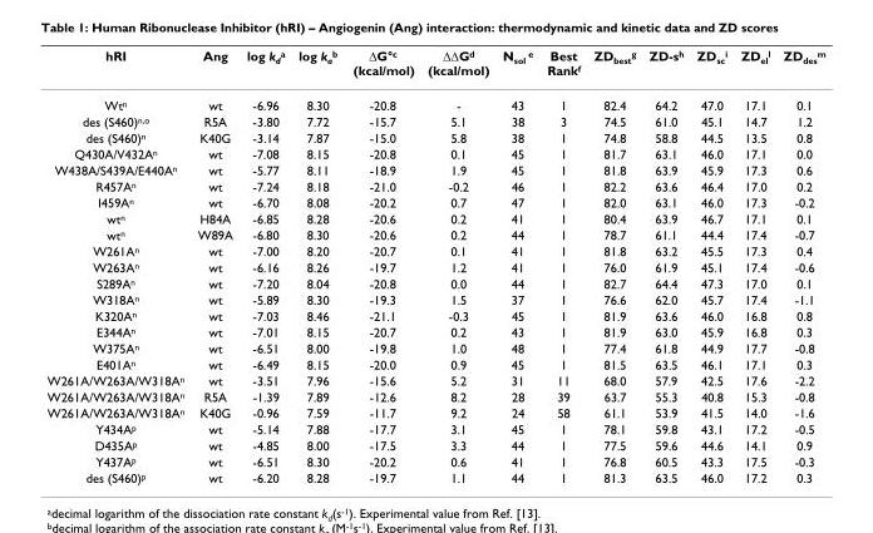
<table><thead><tr><td>hRI</td><td>Ang</td><td>log k<sub>d</sub><sup>a</sup></td><td>log k<sub>a</sub><sup>b</sup></td><td>∆G°c (kcal/mol)</td><td>∆∆Gd (kcal/mol)</td><td>N<sub>sol</sub> <sup>e</sup></td><td>Best Rank<sup>f</sup></td><td>ZD<sub>best</sub><sup>g</sup></td><td>ZD-s<sup>h</sup></td><td>ZD<sub>sc</sub><sup>i</sup></td><td>ZD<sub>el</sub><sup>l</sup></td><td>ZD<sub>des</sub><sup>m</sup></td></tr></thead><tbody><tr><td>Wt<sup>n</sup></td><td>wt</td><td>-6.96</td><td>8.30</td><td>-20.8</td><td>-</td><td>43</td><td>1</td><td>82.4</td><td>64.2</td><td>47.0</td><td>17.1</td><td>0.1</td></tr><tr><td>des (S460)<sup>n,o</sup></td><td>R5A</td><td>-3.80</td><td>7.72</td><td>-15.7</td><td>5.1</td><td>38</td><td>3</td><td>74.5</td><td>61.0</td><td>45.1</td><td>14.7</td><td>1.2</td></tr><tr><td>des (S460)<sup>n</sup></td><td>K40G</td><td>-3.14</td><td>7.87</td><td>-15.0</td><td>5.8</td><td>38</td><td>1</td><td>74.8</td><td>58.8</td><td>44.5</td><td>13.5</td><td>0.8</td></tr><tr><td>Q430A/V432A<sup>n</sup></td><td>wt</td><td>-7.08</td><td>8.15</td><td>-20.8</td><td>0.1</td><td>45</td><td>1</td><td>81.7</td><td>63.1</td><td>46.0</td><td>17.1</td><td>0.0</td></tr><tr><td>W438A/S439A/E440A<sup>n</sup></td><td>wt</td><td>-5.77</td><td>8.11</td><td>-18.9</td><td>1.9</td><td>45</td><td>1</td><td>81.8</td><td>63.9</td><td>45.9</td><td>17.3</td><td>0.6</td></tr><tr><td>R457A<sup>n</sup></td><td>wt</td><td>-7.24</td><td>8.18</td><td>-21.0</td><td>-0.2</td><td>46</td><td>1</td><td>82.2</td><td>63.6</td><td>46.4</td><td>17.0</td><td>0.2</td></tr><tr><td>I459A<sup>n</sup></td><td>wt</td><td>-6.70</td><td>8.08</td><td>-20.2</td><td>0.7</td><td>47</td><td>1</td><td>82.0</td><td>63.1</td><td>46.0</td><td>17.3</td><td>-0.2</td></tr><tr><td>wt<sup>n</sup></td><td>H84A</td><td>-6.85</td><td>8.28</td><td>-20.6</td><td>0.2</td><td>41</td><td>1</td><td>80.4</td><td>63.9</td><td>46.7</td><td>17.1</td><td>0.1</td></tr><tr><td>wt<sup>n</sup></td><td>W89A</td><td>-6.80</td><td>8.30</td><td>-20.6</td><td>0.2</td><td>44</td><td>1</td><td>78.7</td><td>61.1</td><td>44.4</td><td>17.4</td><td>-0.7</td></tr><tr><td>W261A<sup>n</sup></td><td>wt</td><td>-7.00</td><td>8.20</td><td>-20.7</td><td>0.1</td><td>41</td><td>1</td><td>81.8</td><td>63.2</td><td>45.5</td><td>17.3</td><td>0.4</td></tr><tr><td>W263A<sup>n</sup></td><td>wt</td><td>-6.16</td><td>8.26</td><td>-19.7</td><td>1.2</td><td>41</td><td>1</td><td>76.0</td><td>61.9</td><td>45.1</td><td>17.4</td><td>-0.6</td></tr><tr><td>S289A<sup>n</sup></td><td>wt</td><td>-7.20</td><td>8.04</td><td>-20.8</td><td>0.0</td><td>44</td><td>1</td><td>82.7</td><td>64.4</td><td>47.3</td><td>17.0</td><td>0.1</td></tr><tr><td>W318A<sup>n</sup></td><td>wt</td><td>-5.89</td><td>8.30</td><td>-19.3</td><td>1.5</td><td>37</td><td>1</td><td>76.6</td><td>62.0</td><td>45.7</td><td>17.4</td><td>-1.1</td></tr><tr><td>K320A<sup>n</sup></td><td>wt</td><td>-7.03</td><td>8.46</td><td>-21.1</td><td>-0.3</td><td>45</td><td>1</td><td>81.9</td><td>63.6</td><td>46.0</td><td>16.8</td><td>0.8</td></tr><tr><td>E344A<sup>n</sup></td><td>wt</td><td>-7.01</td><td>8.15</td><td>-20.7</td><td>0.2</td><td>43</td><td>1</td><td>81.9</td><td>63.0</td><td>45.9</td><td>16.8</td><td>0.3</td></tr><tr><td>W375A<sup>n</sup></td><td>wt</td><td>-6.51</td><td>8.00</td><td>-19.8</td><td>1.0</td><td>48</td><td>1</td><td>77.4</td><td>61.8</td><td>44.9</td><td>17.7</td><td>-0.8</td></tr><tr><td>E401A<sup>n</sup></td><td>wt</td><td>-6.49</td><td>8.15</td><td>-20.0</td><td>0.9</td><td>45</td><td>1</td><td>81.5</td><td>63.5</td><td>46.1</td><td>17.1</td><td>0.3</td></tr><tr><td>W261A/W263A/W318A<sup>n</sup></td><td>wt</td><td>-3.51</td><td>7.96</td><td>-15.6</td><td>5.2</td><td>31</td><td>11</td><td>68.0</td><td>57.9</td><td>42.5</td><td>17.6</td><td>-2.2</td></tr><tr><td>W261A/W263A/W318A<sup>n</sup></td><td>R5A</td><td>-1.39</td><td>7.89</td><td>-12.6</td><td>8.2</td><td>28</td><td>39</td><td>63.7</td><td>55.3</td><td>40.8</td><td>15.3</td><td>-0.8</td></tr><tr><td>W261A/W263A/W318A<sup>n</sup></td><td>K40G</td><td>-0.96</td><td>7.59</td><td>-11.7</td><td>9.2</td><td>24</td><td>58</td><td>61.1</td><td>53.9</td><td>41.5</td><td>14.0</td><td>-1.6</td></tr><tr><td>Y434A<sup>p</sup></td><td>wt</td><td>-5.14</td><td>7.88</td><td>-17.7</td><td>3.1</td><td>45</td><td>1</td><td>78.1</td><td>59.8</td><td>43.1</td><td>17.2</td><td>-0.5</td></tr><tr><td>D435A<sup>p</sup></td><td>wt</td><td>-4.85</td><td>8.00</td><td>-17.5</td><td>3.3</td><td>44</td><td>1</td><td>77.5</td><td>59.6</td><td>44.6</td><td>14.1</td><td>0.9</td></tr><tr><td>Y437A<sup>p</sup></td><td>wt</td><td>-6.51</td><td>8.30</td><td>-20.2</td><td>0.6</td><td>41</td><td>1</td><td>76.8</td><td>60.5</td><td>43.3</td><td>17.5</td><td>-0.3</td></tr><tr><td>des (S460)<sup>p</sup></td><td>wt</td><td>-6.20</td><td>8.28</td><td>-19.7</td><td>1.1</td><td>44</td><td>1</td><td>81.3</td><td>63.5</td><td>46.0</td><td>17.2</td><td>0.3</td></tr></tbody></table>